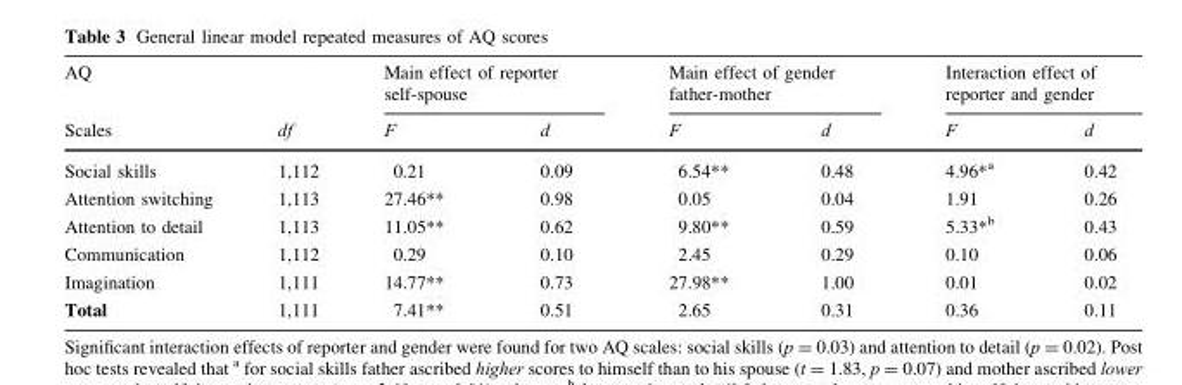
<table><thead><tr><td rowspan="2">AQ Scales</td><td rowspan="2">df</td><td colspan="2">Main effect of reporter self-spouse</td><td colspan="2">Main effect of gender father-mother</td><td colspan="2">Interaction effect of reporter and gender</td></tr><tr><td>F</td><td>d</td><td>F</td><td>d</td><td>F</td><td>d</td></tr></thead><tbody><tr><td>Social skills</td><td>1,112</td><td>0.21</td><td>0.09</td><td>6.54**</td><td>0.48</td><td>4.96*<sup>a</sup></td><td>0.42</td></tr><tr><td>Attention switching</td><td>1,113</td><td>27.46**</td><td>0.98</td><td>0.05</td><td>0.04</td><td>1.91</td><td>0.26</td></tr><tr><td>Attention to detail</td><td>1,113</td><td>11.05**</td><td>0.62</td><td>9.80**</td><td>0.59</td><td>5.33*<sup>b</sup></td><td>0.43</td></tr><tr><td>Communication</td><td>1,112</td><td>0.29</td><td>0.10</td><td>2.45</td><td>0.29</td><td>0.10</td><td>0.06</td></tr><tr><td>Imagination</td><td>1,111</td><td>14.77**</td><td>0.73</td><td>27.98**</td><td>1.00</td><td>0.01</td><td>0.02</td></tr><tr><td>Total</td><td>1,111</td><td>7.41**</td><td>0.51</td><td>2.65</td><td>0.31</td><td>0.36</td><td>0.11</td></tr></tbody></table>